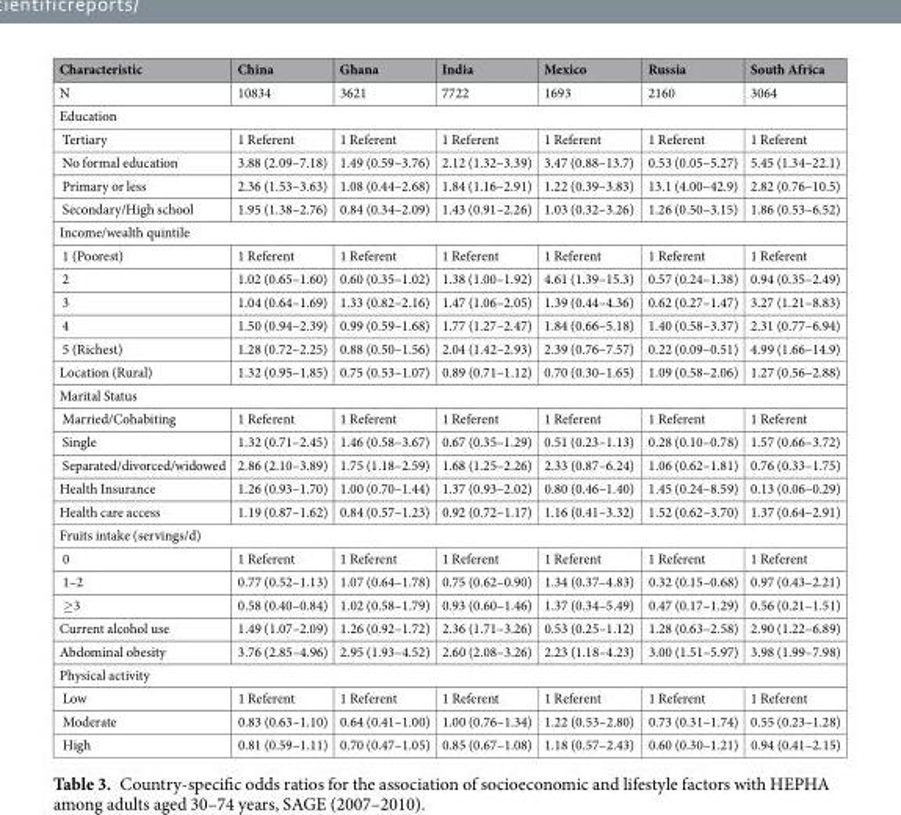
<table><thead><tr><td>Characteristic</td><td>China</td><td>Ghana</td><td>India</td><td>Mexico</td><td>Russia</td><td>South Africa</td></tr></thead><tbody><tr><td>N</td><td>10834</td><td>3621</td><td>7722</td><td>1693</td><td>2160</td><td>3064</td></tr><tr><td colspan="7">Education</td></tr><tr><td>Tertiary</td><td>1 Referent</td><td>1 Referent</td><td>1 Referent</td><td>1 Referent</td><td>1 Referent</td><td>1 Referent</td></tr><tr><td>No formal education</td><td>3.88 (2.09–7.18)</td><td>1.49 (0.59–3.76)</td><td>2.12 (1.32–3.39)</td><td>3.47 (0.88–13.7)</td><td>0.53 (0.05–5.27)</td><td>5.45 (1.34–22.1)</td></tr><tr><td>Primary or less</td><td>2.36 (1.53–3.63)</td><td>1.08 (0.44–2.68)</td><td>1.84 (1.16–2.91)</td><td>1.22 (0.39–3.83)</td><td>13.1 (4.00–42.9)</td><td>2.82 (0.76–10.5)</td></tr><tr><td>Secondary/High school</td><td>1.95 (1.38–2.76)</td><td>0.84 (0.34–2.09)</td><td>1.43 (0.91–2.26)</td><td>1.03 (0.32–3.26)</td><td>1.26 (0.50–3.15)</td><td>1.86 (0.53–6.52)</td></tr><tr><td colspan="7">Income/wealth quintile</td></tr><tr><td>1 (Poorest)</td><td>1 Referent</td><td>1 Referent</td><td>1 Referent</td><td>1 Referent</td><td>1 Referent</td><td>1 Referent</td></tr><tr><td>2</td><td>1.02 (0.65–1.60)</td><td>0.60 (0.35–1.02)</td><td>1.38 (1.00–1.92)</td><td>4.61 (1.39–15.3)</td><td>0.57 (0.24–1.38)</td><td>0.94 (0.35–2.49)</td></tr><tr><td>3</td><td>1.04 (0.64–1.69)</td><td>1.33 (0.82–2.16)</td><td>1.47 (1.06–2.05)</td><td>1.39 (0.44–4.36)</td><td>0.62 (0.27–1.47)</td><td>3.27 (1.21–8.83)</td></tr><tr><td>4</td><td>1.50 (0.94–2.39)</td><td>0.99 (0.59–1.68)</td><td>1.77 (1.27–2.47)</td><td>1.84 (0.66–5.18)</td><td>1.40 (0.58–3.37)</td><td>2.31 (0.77–6.94)</td></tr><tr><td>5 (Richest)</td><td>1.28 (0.72–2.25)</td><td>0.88 (0.50–1.56)</td><td>2.04 (1.42–2.93)</td><td>2.39 (0.76–7.57)</td><td>0.22 (0.09–0.51)</td><td>4.99 (1.66–14.9)</td></tr><tr><td>Location (Rural)</td><td>1.32 (0.95–1.85)</td><td>0.75 (0.53–1.07)</td><td>0.89 (0.71–1.12)</td><td>0.70 (0.30–1.65)</td><td>1.09 (0.58–2.06)</td><td>1.27 (0.56–2.88)</td></tr><tr><td colspan="7">Marital Status</td></tr><tr><td>Married/Cohabiting</td><td>1 Referent</td><td>1 Referent</td><td>1 Referent</td><td>1 Referent</td><td>1 Referent</td><td>1 Referent</td></tr><tr><td>Single</td><td>1.32 (0.71–2.45)</td><td>1.46 (0.58–3.67)</td><td>0.67 (0.35–1.29)</td><td>0.51 (0.23–1.13)</td><td>0.28 (0.10–0.78)</td><td>1.57 (0.66–3.72)</td></tr><tr><td>Separated/divorced/widowed</td><td>2.86 (2.10–3.89)</td><td>1.75 (1.18–2.59)</td><td>1.68 (1.25–2.26)</td><td>2.33 (0.87–6.24)</td><td>1.06 (0.62–1.81)</td><td>0.76 (0.33–1.75)</td></tr><tr><td>Health Insurance</td><td>1.26 (0.93–1.70)</td><td>1.00 (0.70–1.44)</td><td>1.37 (0.93–2.02)</td><td>0.80 (0.46–1.40)</td><td>1.45 (0.24–8.59)</td><td>0.13 (0.06–0.29)</td></tr><tr><td>Health care access</td><td>1.19 (0.87–1.62)</td><td>0.84 (0.57–1.23)</td><td>0.92 (0.72–1.17)</td><td>1.16 (0.41–3.32)</td><td>1.52 (0.62–3.70)</td><td>1.37 (0.64–2.91)</td></tr><tr><td colspan="7">Fruits intake (servings/d)</td></tr><tr><td>0</td><td>1 Referent</td><td>1 Referent</td><td>1 Referent</td><td>1 Referent</td><td>1 Referent</td><td>1 Referent</td></tr><tr><td>1–2</td><td>0.77 (0.52–1.13)</td><td>1.07 (0.64–1.78)</td><td>0.75 (0.62–0.90)</td><td>1.34 (0.37–4.83)</td><td>0.32 (0.15–0.68)</td><td>0.97 (0.43–2.21)</td></tr><tr><td>≥3</td><td>0.58 (0.40–0.84)</td><td>1.02 (0.58–1.79)</td><td>0.93 (0.60–1.46)</td><td>1.37 (0.34–5.49)</td><td>0.47 (0.17–1.29)</td><td>0.56 (0.21–1.51)</td></tr><tr><td>Current alcohol use</td><td>1.49 (1.07–2.09)</td><td>1.26 (0.92–1.72)</td><td>2.36 (1.71–3.26)</td><td>0.53 (0.25–1.12)</td><td>1.28 (0.63–2.58)</td><td>2.90 (1.22–6.89)</td></tr><tr><td>Abdominal obesity</td><td>3.76 (2.85–4.96)</td><td>2.95 (1.93–4.52)</td><td>2.60 (2.08–3.26)</td><td>2.23 (1.18–4.23)</td><td>3.00 (1.51–5.97)</td><td>3.98 (1.99–7.98)</td></tr><tr><td colspan="7">Physical activity</td></tr><tr><td>Low</td><td>1 Referent</td><td>1 Referent</td><td>1 Referent</td><td>1 Referent</td><td>1 Referent</td><td>1 Referent</td></tr><tr><td>Moderate</td><td>0.83 (0.63–1.10)</td><td>0.64 (0.41–1.00)</td><td>1.00 (0.76–1.34)</td><td>1.22 (0.53–2.80)</td><td>0.73 (0.31–1.74)</td><td>0.55 (0.23–1.28)</td></tr><tr><td>High</td><td>0.81 (0.59–1.11)</td><td>0.70 (0.47–1.05)</td><td>0.85 (0.67–1.08)</td><td>1.18 (0.57–2.43)</td><td>0.60 (0.30–1.21)</td><td>0.94 (0.41–2.15)</td></tr></tbody></table>